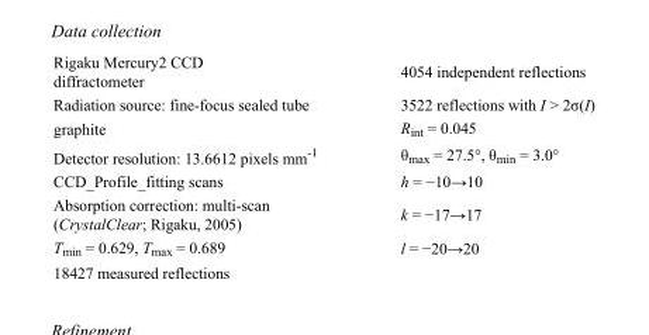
<table><tbody><tr><td>Rigaku Mercury2 CCD diffractometer</td><td>4054 independent reflections</td></tr><tr><td>Radiation source: fine-focus sealed tube</td><td>3522 reflections with I &gt; 2σ(I)</td></tr><tr><td>graphite</td><td>R<sub>int</sub> = 0.045</td></tr><tr><td>Detector resolution: 13.6612 pixels mm<sup>-1</sup></td><td>θ<sub>max</sub> = 27.5°, θ<sub>min</sub> = 3.0°</td></tr><tr><td>CCD_Profile_fitting scans</td><td>h = −10→10</td></tr><tr><td>Absorption correction: multi-scan (CrystalClear; Rigaku, 2005)</td><td>k = −17→17</td></tr><tr><td>T<sub>min</sub> = 0.629, T<sub>max</sub> = 0.689</td><td>l = −20→20</td></tr><tr><td>18427 measured reflections</td><td></td></tr></tbody></table>